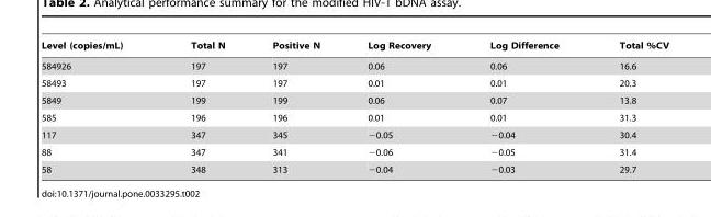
<table><thead><tr><td>Level (copies/mL)</td><td>Total N</td><td>Positive N</td><td>Log Recovery</td><td>Log Difference</td><td>Total %CV</td></tr></thead><tbody><tr><td>584926</td><td>197</td><td>197</td><td>0.06</td><td>0.06</td><td>16.6</td></tr><tr><td>58493</td><td>197</td><td>197</td><td>0.01</td><td>0.01</td><td>20.3</td></tr><tr><td>5849</td><td>199</td><td>199</td><td>0.06</td><td>0.07</td><td>13.8</td></tr><tr><td>585</td><td>196</td><td>196</td><td>0.01</td><td>0.01</td><td>31.3</td></tr><tr><td>117</td><td>347</td><td>345</td><td>−0.05</td><td>−0.04</td><td>30.4</td></tr><tr><td>88</td><td>347</td><td>341</td><td>−0.06</td><td>−0.05</td><td>31.4</td></tr><tr><td>58</td><td>348</td><td>313</td><td>−0.04</td><td>−0.03</td><td>29.7</td></tr></tbody></table>